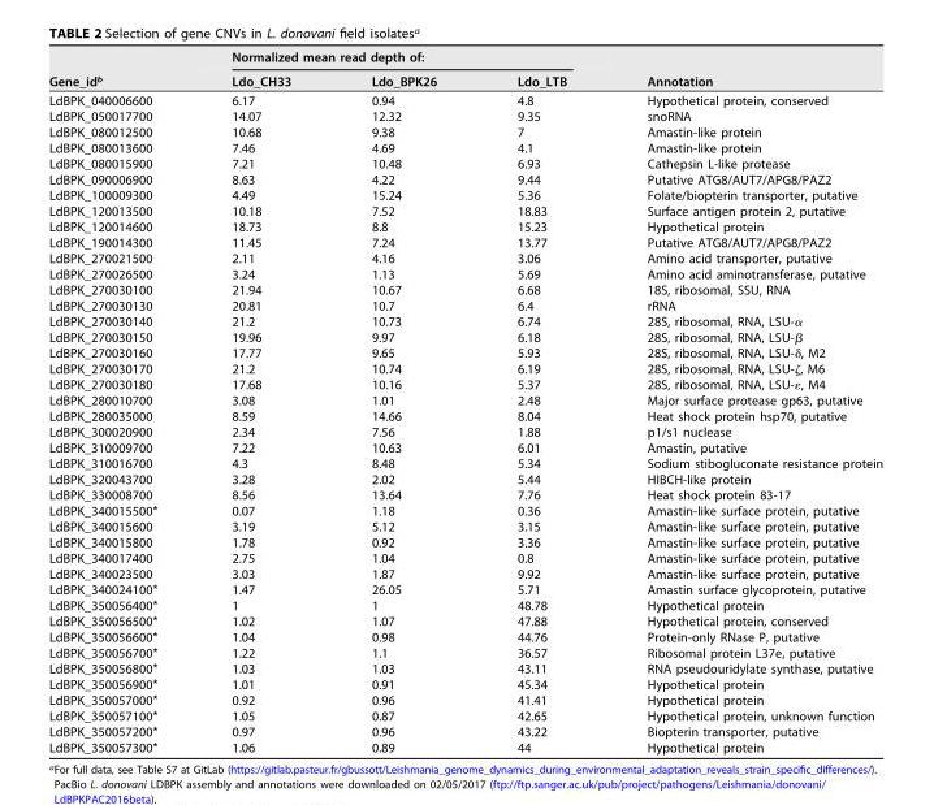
<table><thead><tr><td rowspan="2">Gene_id<sup>b</sup></td><td colspan="3">Normalized mean read depth of:</td><td rowspan="2">Annotation</td></tr><tr><td>Ldo_CH33</td><td>Ldo_BPK26</td><td>Ldo_LTB</td></tr></thead><tbody><tr><td>LdBPK_040006600</td><td>6.17</td><td>0.94</td><td>4.8</td><td>Hypothetical protein, conserved</td></tr><tr><td>LdBPK_050017700</td><td>14.07</td><td>12.32</td><td>9.35</td><td>snoRNA</td></tr><tr><td>LdBPK_080012500</td><td>10.68</td><td>9.38</td><td>7</td><td>Amastin-like protein</td></tr><tr><td>LdBPK_080013600</td><td>7.46</td><td>4.69</td><td>4.1</td><td>Amastin-like protein</td></tr><tr><td>LdBPK_080015900</td><td>7.21</td><td>10.48</td><td>6.93</td><td>Cathepsin L-like protease</td></tr><tr><td>LdBPK_090006900</td><td>8.63</td><td>4.22</td><td>9.44</td><td>Putative ATG8/AUT7/APG8/PAZ2</td></tr><tr><td>LdBPK_100009300</td><td>4.49</td><td>15.24</td><td>5.36</td><td>Folate/biopterin transporter, putative</td></tr><tr><td>LdBPK_120013500</td><td>10.18</td><td>7.52</td><td>18.83</td><td>Surface antigen protein 2, putative</td></tr><tr><td>LdBPK_120014600</td><td>18.73</td><td>8.8</td><td>15.23</td><td>Hypothetical protein</td></tr><tr><td>LdBPK_190014300</td><td>11.45</td><td>7.24</td><td>13.77</td><td>Putative ATG8/AUT7/APG8/PAZ2</td></tr><tr><td>LdBPK_270021500</td><td>2.11</td><td>4.16</td><td>3.06</td><td>Amino acid transporter, putative</td></tr><tr><td>LdBPK_270026500</td><td>3.24</td><td>1.13</td><td>5.69</td><td>Amino acid aminotransferase, putative</td></tr><tr><td>LdBPK_270030100</td><td>21.94</td><td>10.67</td><td>6.68</td><td>18S, ribosomal, SSU, RNA</td></tr><tr><td>LdBPK_270030130</td><td>20.81</td><td>10.7</td><td>6.4</td><td>rRNA</td></tr><tr><td>LdBPK_270030140</td><td>21.2</td><td>10.73</td><td>6.74</td><td>28S, ribosomal, RNA, LSU-α</td></tr><tr><td>LdBPK_270030150</td><td>19.96</td><td>9.97</td><td>6.18</td><td>28S, ribosomal, RNA, LSU-β</td></tr><tr><td>LdBPK_270030160</td><td>17.77</td><td>9.65</td><td>5.93</td><td>28S, ribosomal, RNA, LSU-δ, M2</td></tr><tr><td>LdBPK_270030170</td><td>21.2</td><td>10.74</td><td>6.19</td><td>28S, ribosomal, RNA, LSU-ζ, M6</td></tr><tr><td>LdBPK_270030180</td><td>17.68</td><td>10.16</td><td>5.37</td><td>28S, ribosomal, RNA, LSU-ε, M4</td></tr><tr><td>LdBPK_280010700</td><td>3.08</td><td>1.01</td><td>2.48</td><td>Major surface protease gp63, putative</td></tr><tr><td>LdBPK_280035000</td><td>8.59</td><td>14.66</td><td>8.04</td><td>Heat shock protein hsp70, putative</td></tr><tr><td>LdBPK_300020900</td><td>2.34</td><td>7.56</td><td>1.88</td><td>p1/s1 nuclease</td></tr><tr><td>LdBPK_310009700</td><td>7.22</td><td>10.63</td><td>6.01</td><td>Amastin, putative</td></tr><tr><td>LdBPK_310016700</td><td>4.3</td><td>8.48</td><td>5.34</td><td>Sodium stibogluconate resistance protein</td></tr><tr><td>LdBPK_320043700</td><td>3.28</td><td>2.02</td><td>5.44</td><td>HIBCH-like protein</td></tr><tr><td>LdBPK_330008700</td><td>8.56</td><td>13.64</td><td>7.76</td><td>Heat shock protein 83-17</td></tr><tr><td>LdBPK_340015500*</td><td>0.07</td><td>1.18</td><td>0.36</td><td>Amastin-like surface protein, putative</td></tr><tr><td>LdBPK_340015600</td><td>3.19</td><td>5.12</td><td>3.15</td><td>Amastin-like surface protein, putative</td></tr><tr><td>LdBPK_340015800</td><td>1.78</td><td>0.92</td><td>3.36</td><td>Amastin-like surface protein, putative</td></tr><tr><td>LdBPK_340017400</td><td>2.75</td><td>1.04</td><td>0.8</td><td>Amastin-like surface protein, putative</td></tr><tr><td>LdBPK_340023500</td><td>3.03</td><td>1.87</td><td>9.92</td><td>Amastin-like surface protein, putative</td></tr><tr><td>LdBPK_340024100*</td><td>1.47</td><td>26.05</td><td>5.71</td><td>Amastin surface glycoprotein, putative</td></tr><tr><td>LdBPK_350056400*</td><td>1</td><td>1</td><td>48.78</td><td>Hypothetical protein</td></tr><tr><td>LdBPK_350056500*</td><td>1.02</td><td>1.07</td><td>47.88</td><td>Hypothetical protein, conserved</td></tr><tr><td>LdBPK_350056600*</td><td>1.04</td><td>0.98</td><td>44.76</td><td>Protein-only RNase P, putative</td></tr><tr><td>LdBPK_350056700*</td><td>1.22</td><td>1.1</td><td>36.57</td><td>Ribosomal protein L37e, putative</td></tr><tr><td>LdBPK_350056800*</td><td>1.03</td><td>1.03</td><td>43.11</td><td>RNA pseudouridylate synthase, putative</td></tr><tr><td>LdBPK_350056900*</td><td>1.01</td><td>0.91</td><td>45.34</td><td>Hypothetical protein</td></tr><tr><td>LdBPK_350057000*</td><td>0.92</td><td>0.96</td><td>41.41</td><td>Hypothetical protein</td></tr><tr><td>LdBPK_350057100*</td><td>1.05</td><td>0.87</td><td>42.65</td><td>Hypothetical protein, unknown function</td></tr><tr><td>LdBPK_350057200*</td><td>0.97</td><td>0.96</td><td>43.22</td><td>Biopterin transporter, putative</td></tr><tr><td>LdBPK_350057300*</td><td>1.06</td><td>0.89</td><td>44</td><td>Hypothetical protein</td></tr></tbody></table>